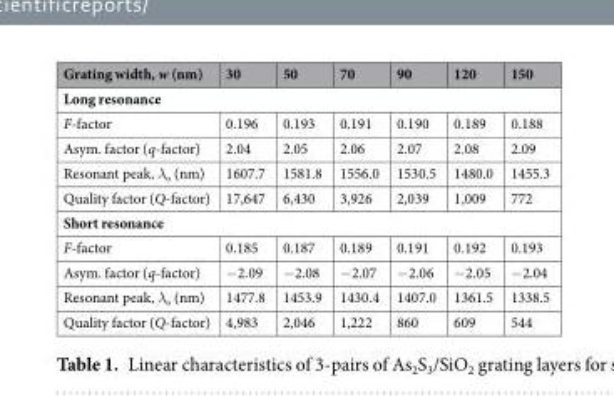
<table><thead><tr><td>Grating width, w (nm)</td><td>30</td><td>50</td><td>70</td><td>90</td><td>120</td><td>150</td></tr></thead><tbody><tr><td colspan="7">Long resonance</td></tr><tr><td>F-factor</td><td>0.196</td><td>0.193</td><td>0.191</td><td>0.190</td><td>0.189</td><td>0.188</td></tr><tr><td>Asym. factor (q-factor)</td><td>2.04</td><td>2.05</td><td>2.06</td><td>2.07</td><td>2.08</td><td>2.09</td></tr><tr><td>Resonant peak, λ<sub>o</sub> (nm)</td><td>1607.7</td><td>1581.8</td><td>1556.0</td><td>1530.5</td><td>1480.0</td><td>1455.3</td></tr><tr><td>Quality factor (Q-factor)</td><td>17,647</td><td>6,430</td><td>3,926</td><td>2,039</td><td>1,009</td><td>772</td></tr><tr><td colspan="7">Short resonance</td></tr><tr><td>F-factor</td><td>0.185</td><td>0.187</td><td>0.189</td><td>0.191</td><td>0.192</td><td>0.193</td></tr><tr><td>Asym. factor (q-factor)</td><td>−2.09</td><td>−2.08</td><td>−2.07</td><td>−2.06</td><td>−2.05</td><td>−2.04</td></tr><tr><td>Resonant peak, λ<sub>o</sub> (nm)</td><td>1477.8</td><td>1453.9</td><td>1430.4</td><td>1407.0</td><td>1361.5</td><td>1338.5</td></tr><tr><td>Quality factor (Q-factor)</td><td>4,983</td><td>2,046</td><td>1,222</td><td>860</td><td>609</td><td>544</td></tr></tbody></table>